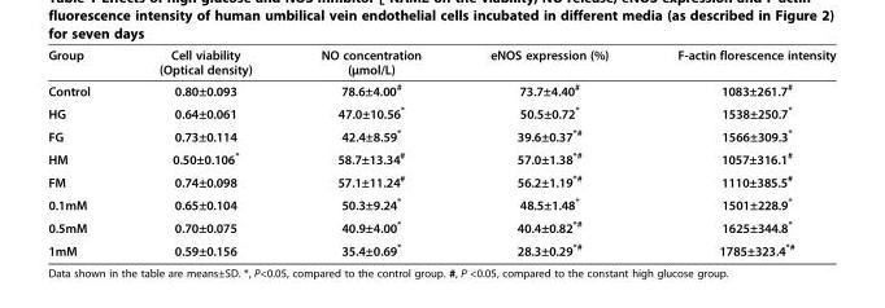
<table><thead><tr><td>Group</td><td>Cell viability (Optical density)</td><td>NO concentration (μmol/L)</td><td>eNOS expression (%)</td><td>F-actin florescence intensity</td></tr></thead><tbody><tr><td>Control</td><td>0.80±0.093</td><td>78.6±4.00<sup>#</sup></td><td>73.7±4.40<sup>#</sup></td><td>1083±261.7<sup>#</sup></td></tr><tr><td>HG</td><td>0.64±0.061</td><td>47.0±10.56*</td><td>50.5±0.72*</td><td>1538±250.7*</td></tr><tr><td>FG</td><td>0.73±0.114</td><td>42.4±8.59*</td><td>39.6±0.37<sup>*#</sup></td><td>1566±309.3*</td></tr><tr><td>HM</td><td>0.50±0.106*</td><td>58.7±13.34<sup>#</sup></td><td>57.0±1.38<sup>*#</sup></td><td>1057±316.1<sup>#</sup></td></tr><tr><td>FM</td><td>0.74±0.098</td><td>57.1±11.24<sup>#</sup></td><td>56.2±1.19<sup>*#</sup></td><td>1110±385.5<sup>#</sup></td></tr><tr><td>0.1mM</td><td>0.65±0.104</td><td>50.3±9.24*</td><td>48.5±1.48*</td><td>1501±228.9*</td></tr><tr><td>0.5mM</td><td>0.70±0.075</td><td>40.9±4.00*</td><td>40.4±0.82<sup>*#</sup></td><td>1625±344.8*</td></tr><tr><td>1mM</td><td>0.59±0.156</td><td>35.4±0.69*</td><td>28.3±0.29<sup>*#</sup></td><td>1785±323.4<sup>*#</sup></td></tr></tbody></table>